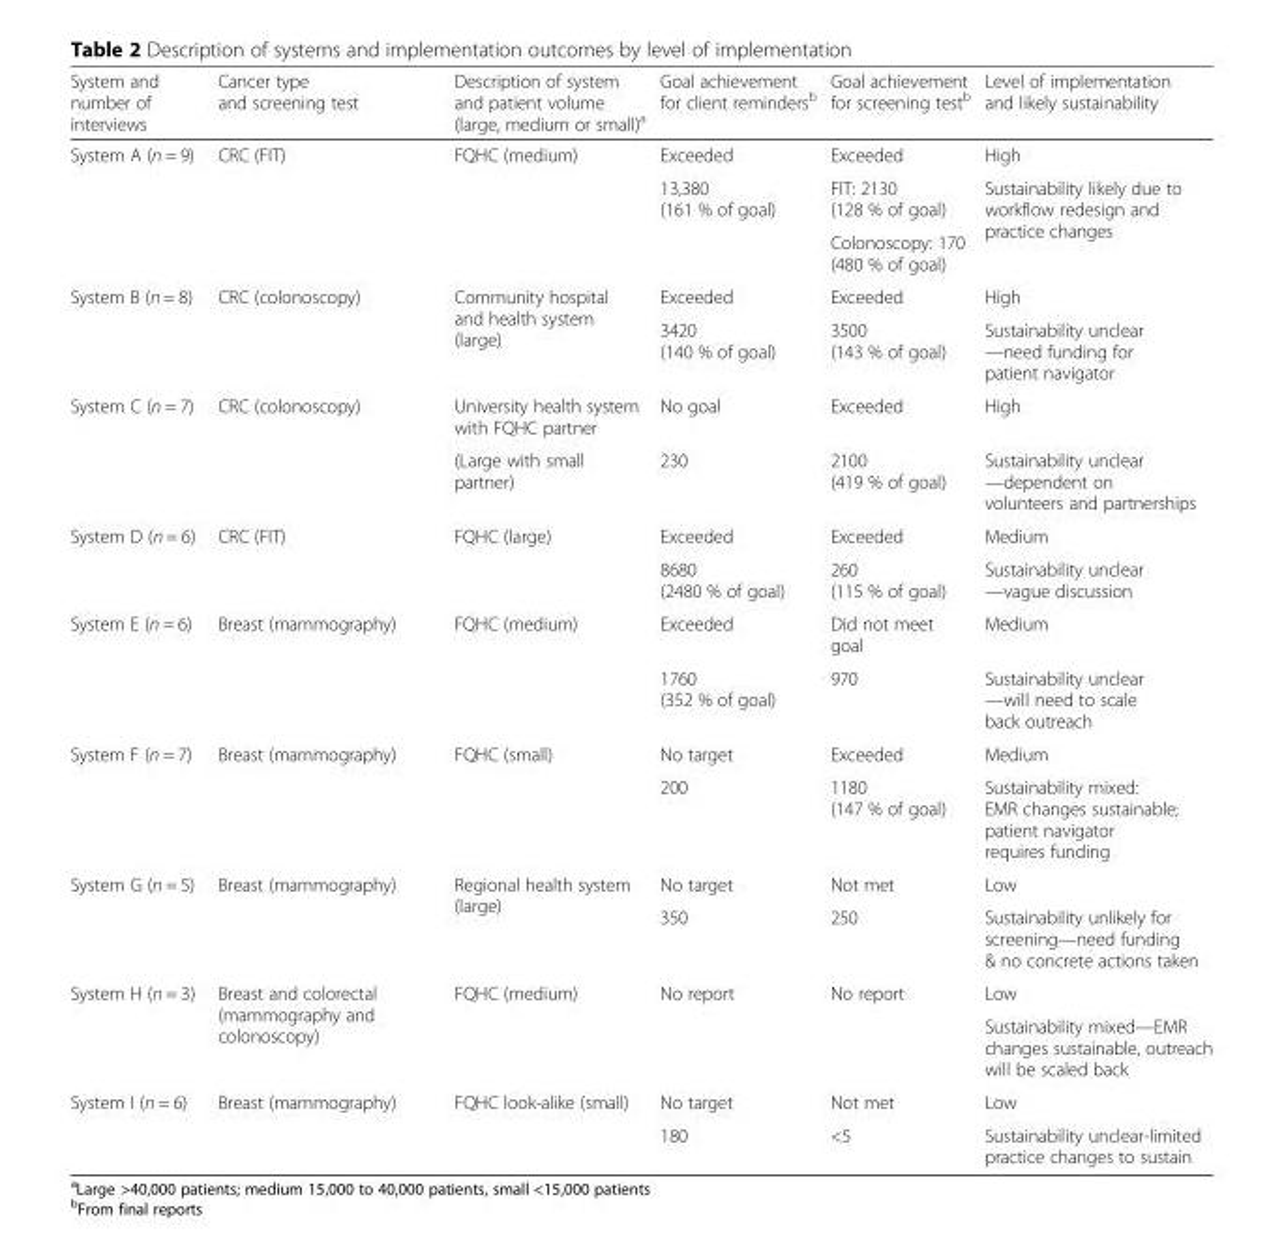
<table><thead><tr><td>System and number of interviews</td><td>Cancer type and screening test</td><td>Description of system and patient volume (large, medium or small)<sup>a</sup></td><td>Goal achievement for client reminders<sup>b</sup></td><td>Goal achievement for screening test<sup>b</sup></td><td>Level of implementation and likely sustainability</td></tr></thead><tbody><tr><td rowspan="3">System A (n = 9)</td><td rowspan="3">CRC (FIT)</td><td rowspan="3">FQHC (medium)</td><td>Exceeded</td><td>Exceeded</td><td>High</td></tr><tr><td rowspan="2">13,380 (161 % of goal)</td><td>FIT: 2130 (128 % of goal)</td><td rowspan="2">Sustainability likely due to workflow redesign and practice changes</td></tr><tr><td>Colonoscopy: 170 (480 % of goal)</td></tr><tr><td rowspan="2">System B (n = 8)</td><td rowspan="2">CRC (colonoscopy)</td><td rowspan="2">Community hospital and health system (large)</td><td>Exceeded</td><td>Exceeded</td><td>High</td></tr><tr><td>3420 (140 % of goal)</td><td>3500 (143 % of goal)</td><td>Sustainability unclear —need funding for patient navigator</td></tr><tr><td rowspan="2">System C (n = 7)</td><td rowspan="2">CRC (colonoscopy)</td><td>University health system with FQHC partner</td><td>No goal</td><td>Exceeded</td><td>High</td></tr><tr><td>(Large with small partner)</td><td>230</td><td>2100 (419 % of goal)</td><td>Sustainability unclear —dependent on volunteers and partnerships</td></tr><tr><td rowspan="2">System D (n = 6)</td><td rowspan="2">CRC (FIT)</td><td rowspan="2">FQHC (large)</td><td>Exceeded</td><td>Exceeded</td><td>Medium</td></tr><tr><td>8680 (2480 % of goal)</td><td>260 (115 % of goal)</td><td>Sustainability unclear —vague discussion</td></tr><tr><td rowspan="2">System E (n = 6)</td><td rowspan="2">Breast (mammography)</td><td rowspan="2">FQHC (medium)</td><td>Exceeded</td><td>Did not meet goal</td><td>Medium</td></tr><tr><td>1760 (352 % of goal)</td><td>970</td><td>Sustainability unclear —will need to scale back outreach</td></tr><tr><td rowspan="2">System F (n = 7)</td><td rowspan="2">Breast (mammography)</td><td rowspan="2">FQHC (small)</td><td>No target</td><td>Exceeded</td><td>Medium</td></tr><tr><td>200</td><td>1180 (147 % of goal)</td><td>Sustainability mixed: EMR changes sustainable; patient navigator requires funding</td></tr><tr><td rowspan="2">System G (n = 5)</td><td rowspan="2">Breast (mammography)</td><td rowspan="2">Regional health system (large)</td><td>No target</td><td>Not met</td><td>Low</td></tr><tr><td>350</td><td>250</td><td>Sustainability unlikely for screening—need funding &amp; no concrete actions taken</td></tr><tr><td rowspan="2">System H (n = 3)</td><td rowspan="2">Breast and colorectal (mammography and colonoscopy)</td><td rowspan="2">FQHC (medium)</td><td rowspan="2">No report</td><td rowspan="2">No report</td><td>Low</td></tr><tr><td>Sustainability mixed—EMR changes sustainable, outreach will be scaled back</td></tr><tr><td rowspan="2">System I (n = 6)</td><td rowspan="2">Breast (mammography)</td><td rowspan="2">FQHC look-alike (small)</td><td>No target</td><td>Not met</td><td>Low</td></tr><tr><td>180</td><td>&lt;5</td><td>Sustainability unclear-limited practice changes to sustain</td></tr></tbody></table>